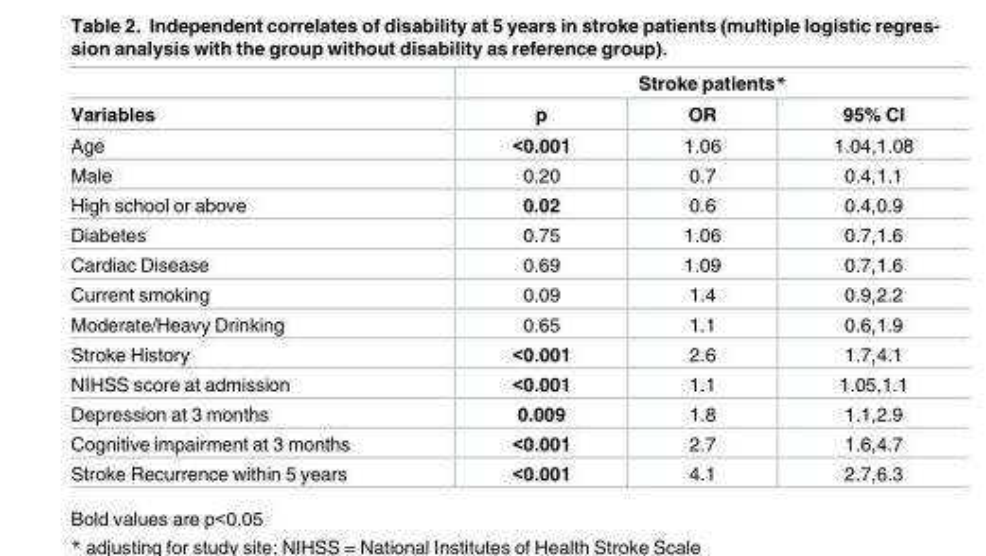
<table><thead><tr><td rowspan="2">Variables</td><td colspan="3">Stroke patients*</td></tr><tr><td>p</td><td>OR</td><td>95% CI</td></tr></thead><tbody><tr><td>Age</td><td>&lt;0.001</td><td>1.06</td><td>1.04,1.08</td></tr><tr><td>Male</td><td>0.20</td><td>0.7</td><td>0.4,1.1</td></tr><tr><td>High school or above</td><td>0.02</td><td>0.6</td><td>0.4,0.9</td></tr><tr><td>Diabetes</td><td>0.75</td><td>1.06</td><td>0.7,1.6</td></tr><tr><td>Cardiac Disease</td><td>0.69</td><td>1.09</td><td>0.7,1.6</td></tr><tr><td>Current smoking</td><td>0.09</td><td>1.4</td><td>0.9,2.2</td></tr><tr><td>Moderate/Heavy Drinking</td><td>0.65</td><td>1.1</td><td>0.6,1.9</td></tr><tr><td>Stroke History</td><td>&lt;0.001</td><td>2.6</td><td>1.7,4.1</td></tr><tr><td>NIHSS score at admission</td><td>&lt;0.001</td><td>1.1</td><td>1.05,1.1</td></tr><tr><td>Depression at 3 months</td><td>0.009</td><td>1.8</td><td>1.1,2.9</td></tr><tr><td>Cognitive impairment at 3 months</td><td>&lt;0.001</td><td>2.7</td><td>1.6,4.7</td></tr><tr><td>Stroke Recurrence within 5 years</td><td>&lt;0.001</td><td>4.1</td><td>2.7,6.3</td></tr></tbody></table>